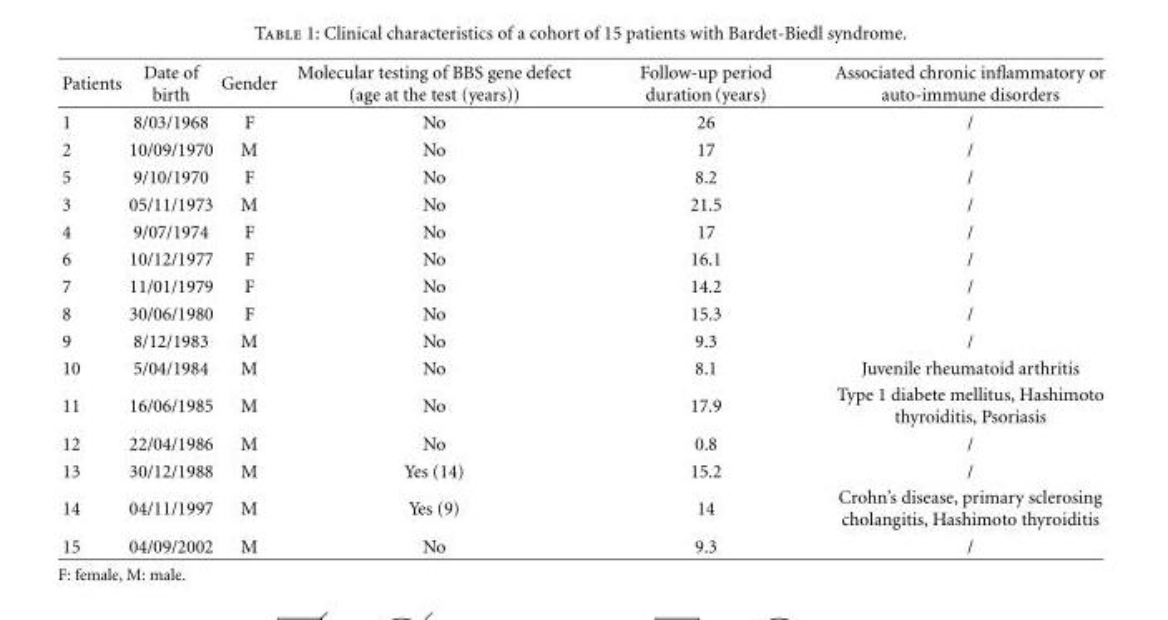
<table><thead><tr><td>Patients</td><td>Date of birth</td><td>Gender</td><td>Molecular testing of BBS gene defect (age at the test (years))</td><td>Follow-up period duration (years)</td><td>Associated chronic inflammatory or auto-immune disorders</td></tr></thead><tbody><tr><td>1</td><td>8/03/1968</td><td>F</td><td>No</td><td>26</td><td>/</td></tr><tr><td>2</td><td>10/09/1970</td><td>M</td><td>No</td><td>17</td><td>/</td></tr><tr><td>5</td><td>9/10/1970</td><td>F</td><td>No</td><td>8.2</td><td>/</td></tr><tr><td>3</td><td>05/11/1973</td><td>M</td><td>No</td><td>21.5</td><td>/</td></tr><tr><td>4</td><td>9/07/1974</td><td>F</td><td>No</td><td>17</td><td>/</td></tr><tr><td>6</td><td>10/12/1977</td><td>F</td><td>No</td><td>16.1</td><td>/</td></tr><tr><td>7</td><td>11/01/1979</td><td>F</td><td>No</td><td>14.2</td><td>/</td></tr><tr><td>8</td><td>30/06/1980</td><td>F</td><td>No</td><td>15.3</td><td>/</td></tr><tr><td>9</td><td>8/12/1983</td><td>M</td><td>No</td><td>9.3</td><td>/</td></tr><tr><td>10</td><td>5/04/1984</td><td>M</td><td>No</td><td>8.1</td><td>Juvenile rheumatoid arthritis</td></tr><tr><td>11</td><td>16/06/1985</td><td>M</td><td>No</td><td>17.9</td><td>Type 1 diabete mellitus, Hashimoto thyroiditis, Psoriasis</td></tr><tr><td>12</td><td>22/04/1986</td><td>M</td><td>No</td><td>0.8</td><td>/</td></tr><tr><td>13</td><td>30/12/1988</td><td>M</td><td>Yes (14)</td><td>15.2</td><td>/</td></tr><tr><td>14</td><td>04/11/1997</td><td>M</td><td>Yes (9)</td><td>14</td><td>Crohn’s disease, primary sclerosing cholangitis, Hashimoto thyroiditis</td></tr><tr><td>15</td><td>04/09/2002</td><td>M</td><td>No</td><td>9.3</td><td>/</td></tr></tbody></table>